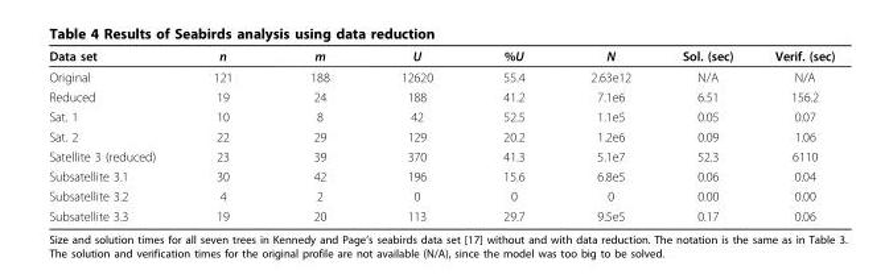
<table><thead><tr><td>Data set</td><td>n</td><td>m</td><td>U</td><td>%U</td><td>N</td><td>Sol. (sec)</td><td>Verif. (sec)</td></tr></thead><tbody><tr><td>Original</td><td>121</td><td>188</td><td>12620</td><td>55.4</td><td>2.63e12</td><td>N/A</td><td>N/A</td></tr><tr><td>Reduced</td><td>19</td><td>24</td><td>188</td><td>41.2</td><td>7.1e6</td><td>6.51</td><td>156.2</td></tr><tr><td>Sat. 1</td><td>10</td><td>8</td><td>42</td><td>52.5</td><td>1.1e5</td><td>0.05</td><td>0.07</td></tr><tr><td>Sat. 2</td><td>22</td><td>29</td><td>129</td><td>20.2</td><td>1.2e6</td><td>0.09</td><td>1.06</td></tr><tr><td>Satellite 3 (reduced)</td><td>23</td><td>39</td><td>370</td><td>41.3</td><td>5.1e7</td><td>52.3</td><td>6110</td></tr><tr><td>Subsatellite 3.1</td><td>30</td><td>42</td><td>196</td><td>15.6</td><td>6.8e5</td><td>0.06</td><td>0.04</td></tr><tr><td>Subsatellite 3.2</td><td>4</td><td>2</td><td>0</td><td>0</td><td>0</td><td>0.00</td><td>0.00</td></tr><tr><td>Subsatellite 3.3</td><td>19</td><td>20</td><td>113</td><td>29.7</td><td>9.5e5</td><td>0.17</td><td>0.06</td></tr></tbody></table>